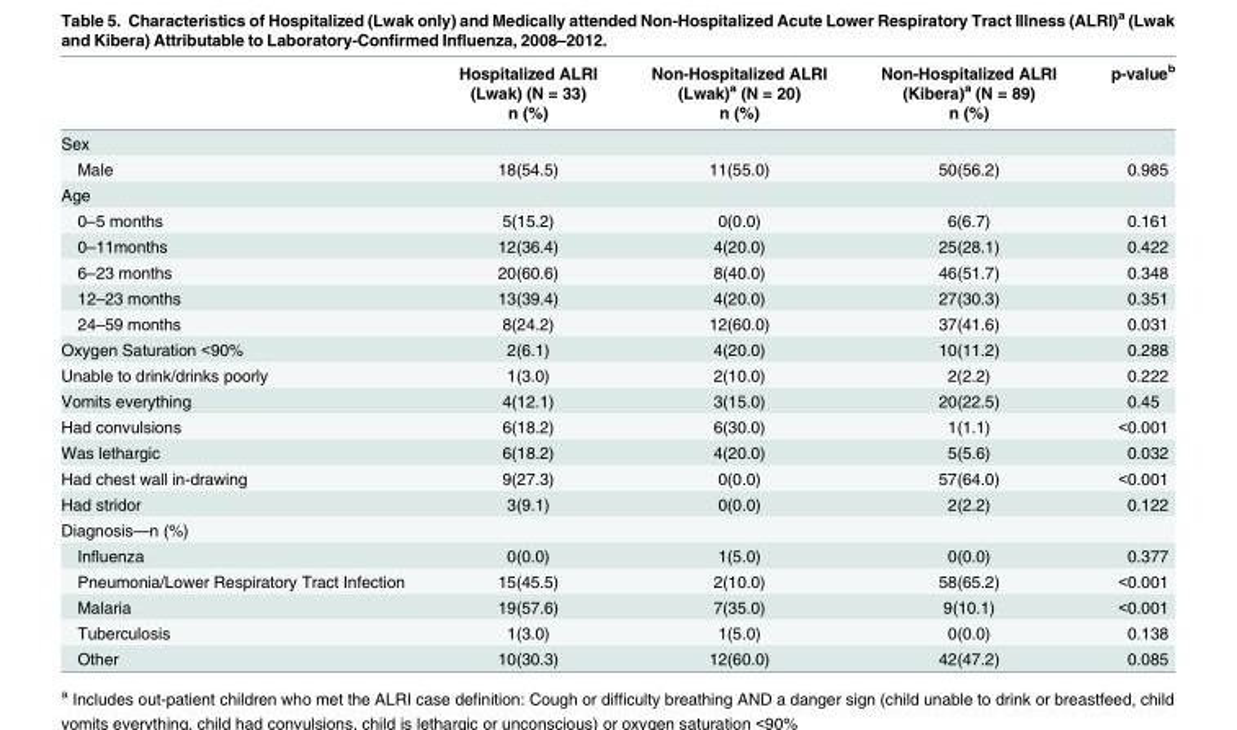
<table><thead><tr><td rowspan="2"></td><td rowspan="2">Hospitalized ALRI (Lwak) (N = 33) n (%)</td><td rowspan="2">Non-Hospitalized ALRI (Lwak)<sup>a</sup> (N = 20) n (%)</td><td rowspan="2">Non-Hospitalized ALRI (Kibera)<sup>a</sup> (N = 89) n (%)</td><td rowspan="2">p-value<sup>b</sup></td></tr><tr></tr></thead><tbody><tr><td colspan="5">Sex</td></tr><tr><td>Male</td><td>18(54.5)</td><td>11(55.0)</td><td>50(56.2)</td><td>0.985</td></tr><tr><td colspan="5">Age</td></tr><tr><td>0–5 months</td><td>5(15.2)</td><td>0(0.0)</td><td>6(6.7)</td><td>0.161</td></tr><tr><td>0–11months</td><td>12(36.4)</td><td>4(20.0)</td><td>25(28.1)</td><td>0.422</td></tr><tr><td>6–23 months</td><td>20(60.6)</td><td>8(40.0)</td><td>46(51.7)</td><td>0.348</td></tr><tr><td>12–23 months</td><td>13(39.4)</td><td>4(20.0)</td><td>27(30.3)</td><td>0.351</td></tr><tr><td>24–59 months</td><td>8(24.2)</td><td>12(60.0)</td><td>37(41.6)</td><td>0.031</td></tr><tr><td>Oxygen Saturation &lt;90%</td><td>2(6.1)</td><td>4(20.0)</td><td>10(11.2)</td><td>0.288</td></tr><tr><td>Unable to drink/drinks poorly</td><td>1(3.0)</td><td>2(10.0)</td><td>2(2.2)</td><td>0.222</td></tr><tr><td>Vomits everything</td><td>4(12.1)</td><td>3(15.0)</td><td>20(22.5)</td><td>0.45</td></tr><tr><td>Had convulsions</td><td>6(18.2)</td><td>6(30.0)</td><td>1(1.1)</td><td>&lt;0.001</td></tr><tr><td>Was lethargic</td><td>6(18.2)</td><td>4(20.0)</td><td>5(5.6)</td><td>0.032</td></tr><tr><td>Had chest wall in-drawing</td><td>9(27.3)</td><td>0(0.0)</td><td>57(64.0)</td><td>&lt;0.001</td></tr><tr><td>Had stridor</td><td>3(9.1)</td><td>0(0.0)</td><td>2(2.2)</td><td>0.122</td></tr><tr><td colspan="5">Diagnosis—n (%)</td></tr><tr><td>Influenza</td><td>0(0.0)</td><td>1(5.0)</td><td>0(0.0)</td><td>0.377</td></tr><tr><td>Pneumonia/Lower Respiratory Tract Infection</td><td>15(45.5)</td><td>2(10.0)</td><td>58(65.2)</td><td>&lt;0.001</td></tr><tr><td>Malaria</td><td>19(57.6)</td><td>7(35.0)</td><td>9(10.1)</td><td>&lt;0.001</td></tr><tr><td>Tuberculosis</td><td>1(3.0)</td><td>1(5.0)</td><td>0(0.0)</td><td>0.138</td></tr><tr><td>Other</td><td>10(30.3)</td><td>12(60.0)</td><td>42(47.2)</td><td>0.085</td></tr></tbody></table>